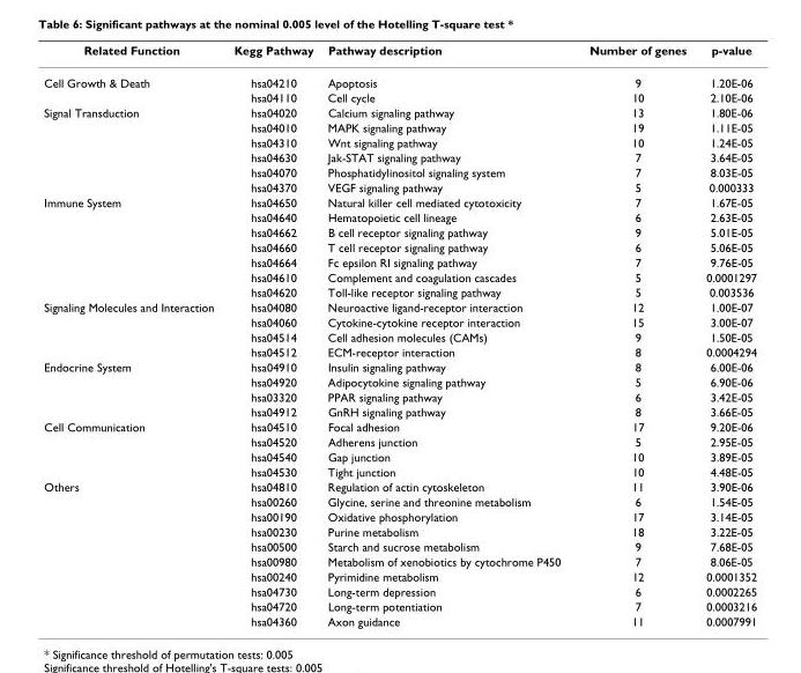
<table><thead><tr><td>Related Function</td><td>Kegg Pathway</td><td>Pathway description</td><td>Number of genes</td><td>p-value</td></tr></thead><tbody><tr><td rowspan="2">Cell Growth &amp; Death</td><td>hsa04210</td><td>Apoptosis</td><td>9</td><td>1.20E-06</td></tr><tr><td>hsa04110</td><td>Cell cycle</td><td>10</td><td>2.10E-06</td></tr><tr><td rowspan="6">Signal Transduction</td><td>hsa04020</td><td>Calcium signaling pathway</td><td>13</td><td>1.80E-06</td></tr><tr><td>hsa04010</td><td>MAPK signaling pathway</td><td>19</td><td>1.11E-05</td></tr><tr><td>hsa04310</td><td>Wnt signaling pathway</td><td>10</td><td>1.24E-05</td></tr><tr><td>hsa04630</td><td>Jak-STAT signaling pathway</td><td>7</td><td>3.64E-05</td></tr><tr><td>hsa04070</td><td>Phosphatidylinositol signaling system</td><td>7</td><td>8.03E-05</td></tr><tr><td>hsa04370</td><td>VEGF signaling pathway</td><td>5</td><td>0.000333</td></tr><tr><td rowspan="7">Immune System</td><td>hsa04650</td><td>Natural killer cell mediated cytotoxicity</td><td>7</td><td>1.67E-05</td></tr><tr><td>hsa04640</td><td>Hematopoietic cell lineage</td><td>6</td><td>2.63E-05</td></tr><tr><td>hsa04662</td><td>B cell receptor signaling pathway</td><td>9</td><td>5.01E-05</td></tr><tr><td>hsa04660</td><td>T cell receptor signaling pathway</td><td>6</td><td>5.06E-05</td></tr><tr><td>hsa04664</td><td>Fc epsilon RI signaling pathway</td><td>7</td><td>9.76E-05</td></tr><tr><td>hsa04610</td><td>Complement and coagulation cascades</td><td>5</td><td>0.0001297</td></tr><tr><td>hsa04620</td><td>Toll-like receptor signaling pathway</td><td>5</td><td>0.003536</td></tr><tr><td rowspan="4">Signaling Molecules and Interaction</td><td>hsa04080</td><td>Neuroactive ligand-receptor interaction</td><td>12</td><td>1.00E-07</td></tr><tr><td>hsa04060</td><td>Cytokine-cytokine receptor interaction</td><td>15</td><td>3.00E-07</td></tr><tr><td>hsa04514</td><td>Cell adhesion molecules (CAMs)</td><td>9</td><td>1.50E-05</td></tr><tr><td>hsa04512</td><td>ECM-receptor interaction</td><td>8</td><td>0.0004294</td></tr><tr><td rowspan="4">Endocrine System</td><td>hsa04910</td><td>Insulin signaling pathway</td><td>8</td><td>6.00E-06</td></tr><tr><td>hsa04920</td><td>Adipocytokine signaling pathway</td><td>5</td><td>6.90E-06</td></tr><tr><td>hsa03320</td><td>PPAR signaling pathway</td><td>6</td><td>3.42E-05</td></tr><tr><td>hsa04912</td><td>GnRH signaling pathway</td><td>8</td><td>3.66E-05</td></tr><tr><td rowspan="4">Cell Communication</td><td>hsa04510</td><td>Focal adhesion</td><td>17</td><td>9.20E-06</td></tr><tr><td>hsa04520</td><td>Adherens junction</td><td>5</td><td>2.95E-05</td></tr><tr><td>hsa04540</td><td>Gap junction</td><td>10</td><td>3.89E-05</td></tr><tr><td>hsa04530</td><td>Tight junction</td><td>10</td><td>4.48E-05</td></tr><tr><td rowspan="10">Others</td><td>hsa04810</td><td>Regulation of actin cytoskeleton</td><td>11</td><td>3.90E-06</td></tr><tr><td>hsa00260</td><td>Glycine, serine and threonine metabolism</td><td>6</td><td>1.54E-05</td></tr><tr><td>hsa00190</td><td>Oxidative phosphorylation</td><td>17</td><td>3.14E-05</td></tr><tr><td>hsa00230</td><td>Purine metabolism</td><td>18</td><td>3.22E-05</td></tr><tr><td>hsa00500</td><td>Starch and sucrose metabolism</td><td>9</td><td>7.68E-05</td></tr><tr><td>hsa00980</td><td>Metabolism of xenobiotics by cytochrome P450</td><td>7</td><td>8.06E-05</td></tr><tr><td>hsa00240</td><td>Pyrimidine metabolism</td><td>12</td><td>0.0001352</td></tr><tr><td>hsa04730</td><td>Long-term depression</td><td>6</td><td>0.0002265</td></tr><tr><td>hsa04720</td><td>Long-term potentiation</td><td>7</td><td>0.0003216</td></tr><tr><td>hsa04360</td><td>Axon guidance</td><td>11</td><td>0.0007991</td></tr></tbody></table>